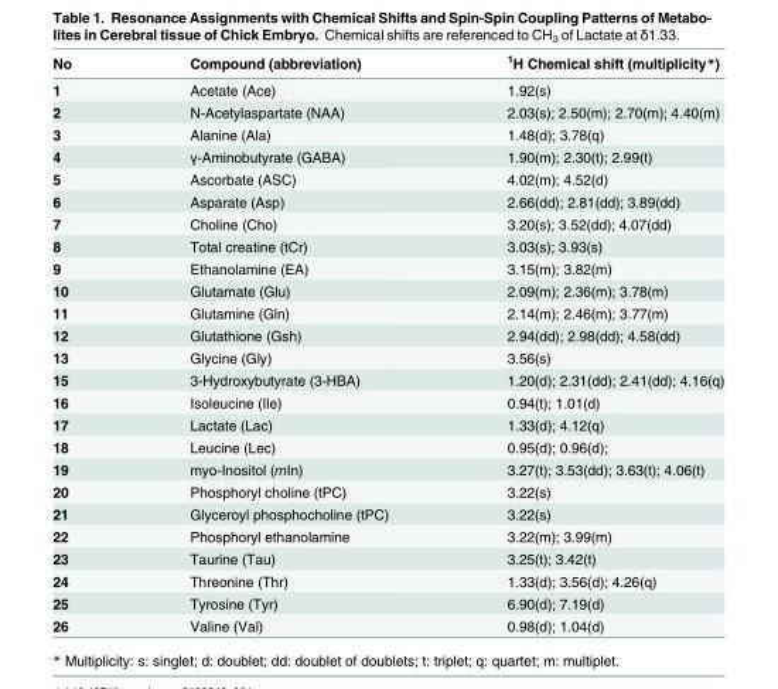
<table><thead><tr><td>No</td><td>Compound (abbreviation)</td><td><sup>1</sup>H Chemical shift (multiplicity*)</td></tr></thead><tbody><tr><td>1</td><td>Acetate (Ace)</td><td>1.92(s)</td></tr><tr><td>2</td><td>N-Acetylaspartate (NAA)</td><td>2.03(s); 2.50(m); 2.70(m); 4.40(m)</td></tr><tr><td>3</td><td>Alanine (Ala)</td><td>1.48(d); 3.78(q)</td></tr><tr><td>4</td><td>γ-Aminobutyrate (GABA)</td><td>1.90(m); 2.30(t); 2.99(t)</td></tr><tr><td>5</td><td>Ascorbate (ASC)</td><td>4.02(m); 4.52(d)</td></tr><tr><td>6</td><td>Asparate (Asp)</td><td>2.66(dd); 2.81(dd); 3.89(dd)</td></tr><tr><td>7</td><td>Choline (Cho)</td><td>3.20(s); 3.52(dd); 4.07(dd)</td></tr><tr><td>8</td><td>Total creatine (tCr)</td><td>3.03(s); 3.93(s)</td></tr><tr><td>9</td><td>Ethanolamine (EA)</td><td>3.15(m); 3.82(m)</td></tr><tr><td>10</td><td>Glutamate (Glu)</td><td>2.09(m); 2.36(m); 3.78(m)</td></tr><tr><td>11</td><td>Glutamine (Gln)</td><td>2.14(m); 2.46(m); 3.77(m)</td></tr><tr><td>12</td><td>Glutathione (Gsh)</td><td>2.94(dd); 2.98(dd); 4.58(dd)</td></tr><tr><td>13</td><td>Glycine (Gly)</td><td>3.56(s)</td></tr><tr><td>15</td><td>3-Hydroxybutyrate (3-HBA)</td><td>1.20(d); 2.31(dd); 2.41(dd); 4.16(q)</td></tr><tr><td>16</td><td>Isoleucine (Ile)</td><td>0.94(t); 1.01(d)</td></tr><tr><td>17</td><td>Lactate (Lac)</td><td>1.33(d); 4.12(q)</td></tr><tr><td>18</td><td>Leucine (Lec)</td><td>0.95(d); 0.96(d);</td></tr><tr><td>19</td><td>myo-Inositol (mIn)</td><td>3.27(t); 3.53(dd); 3.63(t); 4.06(t)</td></tr><tr><td>20</td><td>Phosphoryl choline (tPC)</td><td>3.22(s)</td></tr><tr><td>21</td><td>Glyceroyl phosphocholine (tPC)</td><td>3.22(s)</td></tr><tr><td>22</td><td>Phosphoryl ethanolamine</td><td>3.22(m); 3.99(m)</td></tr><tr><td>23</td><td>Taurine (Tau)</td><td>3.25(t); 3.42(t)</td></tr><tr><td>24</td><td>Threonine (Thr)</td><td>1.33(d); 3.56(d); 4.26(q)</td></tr><tr><td>25</td><td>Tyrosine (Tyr)</td><td>6.90(d); 7.19(d)</td></tr><tr><td>26</td><td>Valine (Val)</td><td>0.98(d); 1.04(d)</td></tr></tbody></table>